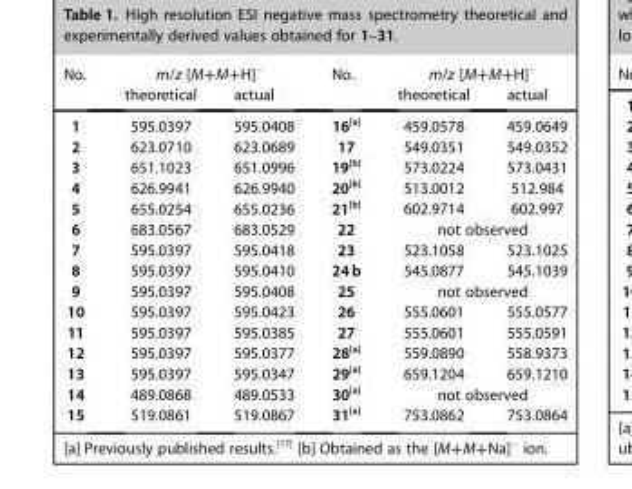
<table><thead><tr><td rowspan="2">No.</td><td colspan="2">m/z [M+M++H]�</td><td rowspan="2">No.</td><td colspan="2">m/z [M++M+H]�</td></tr><tr><td>theoretical</td><td>actual</td><td>theoretical</td><td>actual</td></tr></thead><tbody><tr><td>1</td><td>595.0397</td><td>595.0408</td><td>16<sup>[a]</sup></td><td>459.0578</td><td>459.0649</td></tr><tr><td>2</td><td>623.0710</td><td>623.0689</td><td>17</td><td>549.0351</td><td>549.0352</td></tr><tr><td>3</td><td>651.1023</td><td>651.0996</td><td>19<sup>[b]</sup></td><td>573.0224</td><td>573.0431</td></tr><tr><td>4</td><td>626.9941</td><td>626.9940</td><td>20<sup>[b]</sup></td><td>513.0012</td><td>512.984</td></tr><tr><td>5</td><td>655.0254</td><td>655.0236</td><td>21<sup>[b]</sup></td><td>602.9714</td><td>602.997</td></tr><tr><td>6</td><td>683.0567</td><td>683.0529</td><td>22</td><td colspan="2">not observed</td></tr><tr><td>7</td><td>595.0397</td><td>595.0418</td><td>23</td><td>523.1058</td><td>523.1025</td></tr><tr><td>8</td><td>595.0397</td><td>595.0410</td><td>24b</td><td>545.0877</td><td>545.1039</td></tr><tr><td>9</td><td>595.0397</td><td>595.0408</td><td>25</td><td colspan="2">not observed</td></tr><tr><td>10</td><td>595.0397</td><td>595.0423</td><td>26</td><td>555.0601</td><td>555.0577</td></tr><tr><td>11</td><td>595.0397</td><td>595.0385</td><td>27</td><td>555.0601</td><td>555.0591</td></tr><tr><td>12</td><td>595.0397</td><td>595.0377</td><td>28<sup>[a]</sup></td><td>559.0890</td><td>558.9373</td></tr><tr><td>13</td><td>595.0397</td><td>595.0347</td><td>29<sup>[a]</sup></td><td>659.1204</td><td>659.1210</td></tr><tr><td>14</td><td>489.0868</td><td>489.0533</td><td>30<sup>[a]</sup></td><td colspan="2">not observed</td></tr><tr><td>15</td><td>519.0861</td><td>519.0867</td><td>31<sup>[a]</sup></td><td>753.0862</td><td>753.0864</td></tr></tbody></table>